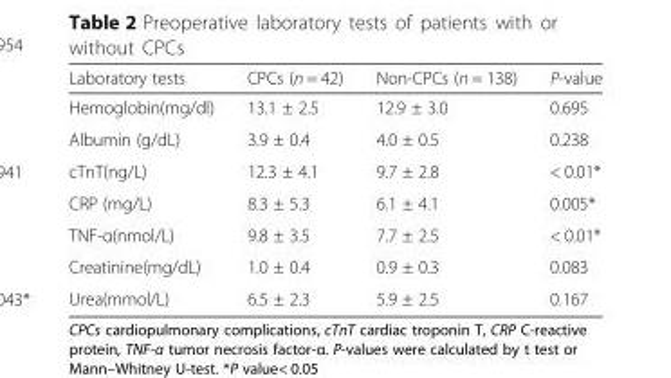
<table><thead><tr><td>Laboratory tests</td><td>CPCs (n = 42)</td><td>Non-CPCs (n = 138)</td><td>P-value</td></tr></thead><tbody><tr><td>Hemoglobin(mg/dl)</td><td>13.1 ± 2.5</td><td>12.9 ± 3.0</td><td>0.695</td></tr><tr><td>Albumin (g/dL)</td><td>3.9 ± 0.4</td><td>4.0 ± 0.5</td><td>0.238</td></tr><tr><td>cTnT(ng/L)</td><td>12.3 ± 4.1</td><td>9.7 ± 2.8</td><td>&lt; 0.01*</td></tr><tr><td>CRP (mg/L)</td><td>8.3 ± 5.3</td><td>6.1 ± 4.1</td><td>0.005*</td></tr><tr><td>TNF-α(nmol/L)</td><td>9.8 ± 3.5</td><td>7.7 ± 2.5</td><td>&lt; 0.01*</td></tr><tr><td>Creatinine(mg/dL)</td><td>1.0 ± 0.4</td><td>0.9 ± 0.3</td><td>0.083</td></tr><tr><td>Urea(mmol/L)</td><td>6.5 ± 2.3</td><td>5.9 ± 2.5</td><td>0.167</td></tr></tbody></table>